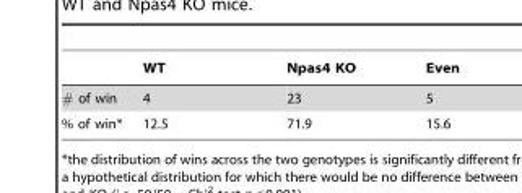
<table><thead><tr><td></td><td>WT</td><td>Npas4 KO</td><td>Even</td></tr></thead><tbody><tr><td># of win</td><td>4</td><td>23</td><td>5</td></tr><tr><td>% of win*</td><td>12.5</td><td>71.9</td><td>15.6</td></tr></tbody></table>